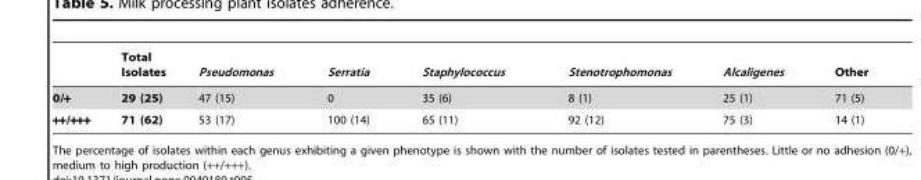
<table><thead><tr><td></td><td>Total Isolates</td><td>Pseudomonas</td><td>Serratia</td><td>Staphylococcus</td><td>Stenotrophomonas</td><td>Alcaligenes</td><td>Other</td></tr></thead><tbody><tr><td>0/+</td><td>29 (25)</td><td>47 (15)</td><td>0</td><td>35 (6)</td><td>8 (1)</td><td>25 (1)</td><td>71 (5)</td></tr><tr><td>++/+++</td><td>71 (62)</td><td>53 (17)</td><td>100 (14)</td><td>65 (11)</td><td>92 (12)</td><td>75 (3)</td><td>14 (1)</td></tr></tbody></table>